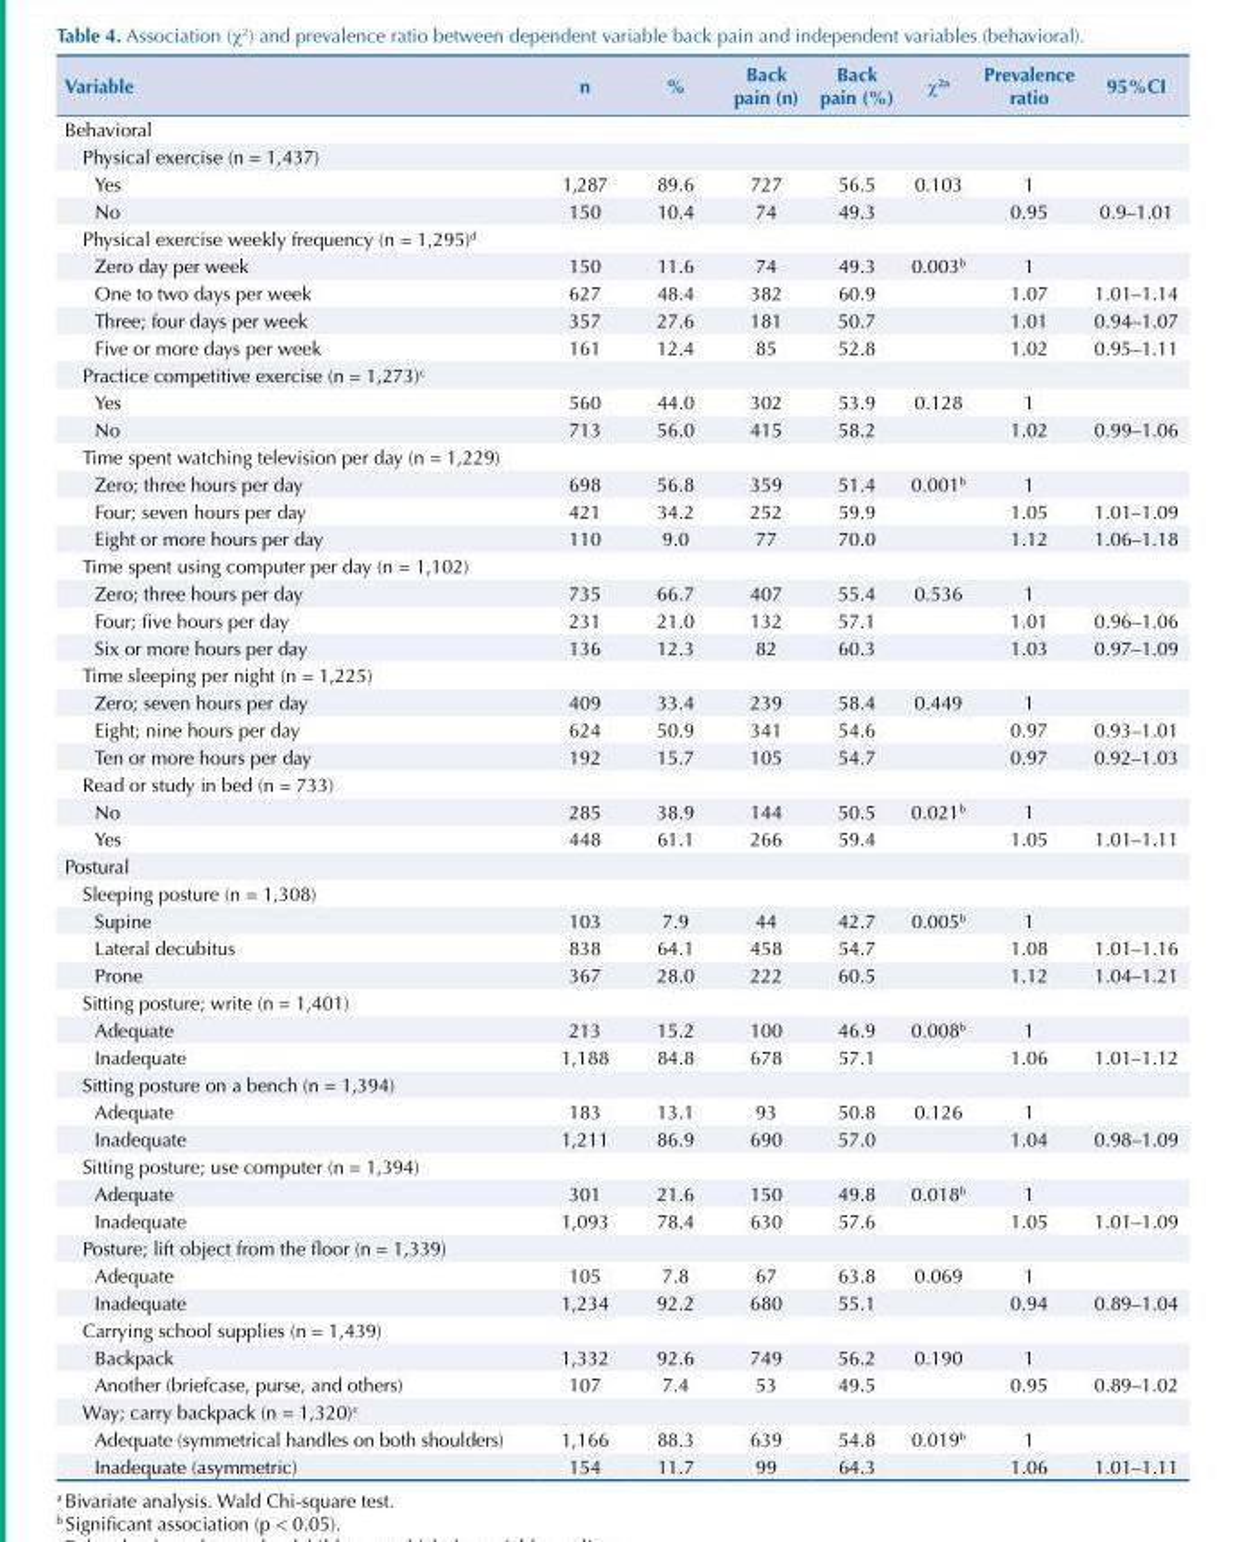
<table><thead><tr><td>Variable</td><td>n</td><td>%</td><td>Back pain (n)</td><td>Back pain (%)</td><td>χ<sup>2a</sup></td><td>Prevalence ratio</td><td>95%CI</td></tr></thead><tbody><tr><td colspan="8">Behavioral</td></tr><tr><td colspan="8">Physical exercise (n = 1,437)</td></tr><tr><td>Yes</td><td>1,287</td><td>89.6</td><td>727</td><td>56.5</td><td>0.103</td><td>1</td><td></td></tr><tr><td>No</td><td>150</td><td>10.4</td><td>74</td><td>49.3</td><td></td><td>0.95</td><td>0.9–1.01</td></tr><tr><td colspan="8">Physical exercise weekly frequency (n = 1,295)<sup>d</sup></td></tr><tr><td>Zero day per week</td><td>150</td><td>11.6</td><td>74</td><td>49.3</td><td>0.003<sup>b</sup></td><td>1</td><td></td></tr><tr><td>One to two days per week</td><td>627</td><td>48.4</td><td>382</td><td>60.9</td><td></td><td>1.07</td><td>1.01–1.14</td></tr><tr><td>Three; four days per week</td><td>357</td><td>27.6</td><td>181</td><td>50.7</td><td></td><td>1.01</td><td>0.94–1.07</td></tr><tr><td>Five or more days per week</td><td>161</td><td>12.4</td><td>85</td><td>52.8</td><td></td><td>1.02</td><td>0.95–1.11</td></tr><tr><td colspan="8">Practice competitive exercise (n = 1,273)<sup>c</sup></td></tr><tr><td>Yes</td><td>560</td><td>44.0</td><td>302</td><td>53.9</td><td>0.128</td><td>1</td><td></td></tr><tr><td>No</td><td>713</td><td>56.0</td><td>415</td><td>58.2</td><td></td><td>1.02</td><td>0.99–1.06</td></tr><tr><td colspan="8">Time spent watching television per day (n = 1,229)</td></tr><tr><td>Zero; three hours per day</td><td>698</td><td>56.8</td><td>359</td><td>51.4</td><td>0.001<sup>b</sup></td><td>1</td><td></td></tr><tr><td>Four; seven hours per day</td><td>421</td><td>34.2</td><td>252</td><td>59.9</td><td></td><td>1.05</td><td>1.01–1.09</td></tr><tr><td>Eight or more hours per day</td><td>110</td><td>9.0</td><td>77</td><td>70.0</td><td></td><td>1.12</td><td>1.06–1.18</td></tr><tr><td colspan="8">Time spent using computer per day (n = 1,102)</td></tr><tr><td>Zero; three hours per day</td><td>735</td><td>66.7</td><td>407</td><td>55.4</td><td>0.536</td><td>1</td><td></td></tr><tr><td>Four; five hours per day</td><td>231</td><td>21.0</td><td>132</td><td>57.1</td><td></td><td>1.01</td><td>0.96–1.06</td></tr><tr><td>Six or more hours per day</td><td>136</td><td>12.3</td><td>82</td><td>60.3</td><td></td><td>1.03</td><td>0.97–1.09</td></tr><tr><td colspan="8">Time sleeping per night (n = 1,225)</td></tr><tr><td>Zero; seven hours per day</td><td>409</td><td>33.4</td><td>239</td><td>58.4</td><td>0.449</td><td>1</td><td></td></tr><tr><td>Eight; nine hours per day</td><td>624</td><td>50.9</td><td>341</td><td>54.6</td><td></td><td>0.97</td><td>0.93–1.01</td></tr><tr><td>Ten or more hours per day</td><td>192</td><td>15.7</td><td>105</td><td>54.7</td><td></td><td>0.97</td><td>0.92–1.03</td></tr><tr><td colspan="8">Read or study in bed (n = 733)</td></tr><tr><td>No</td><td>285</td><td>38.9</td><td>144</td><td>50.5</td><td>0.021<sup>b</sup></td><td>1</td><td></td></tr><tr><td>Yes</td><td>448</td><td>61.1</td><td>266</td><td>59.4</td><td></td><td>1.05</td><td>1.01–1.11</td></tr><tr><td colspan="8">Postural</td></tr><tr><td colspan="8">Sleeping posture (n = 1,308)</td></tr><tr><td>Supine</td><td>103</td><td>7.9</td><td>44</td><td>42.7</td><td>0.005<sup>b</sup></td><td>1</td><td></td></tr><tr><td>Lateral decubitus</td><td>838</td><td>64.1</td><td>458</td><td>54.7</td><td></td><td>1.08</td><td>1.01–1.16</td></tr><tr><td>Prone</td><td>367</td><td>28.0</td><td>222</td><td>60.5</td><td></td><td>1.12</td><td>1.04–1.21</td></tr><tr><td colspan="8">Sitting posture; write (n = 1,401)</td></tr><tr><td>Adequate</td><td>213</td><td>15.2</td><td>100</td><td>46.9</td><td>0.008<sup>b</sup></td><td>1</td><td></td></tr><tr><td>Inadequate</td><td>1,188</td><td>84.8</td><td>678</td><td>57.1</td><td></td><td>1.06</td><td>1.01–1.12</td></tr><tr><td colspan="8">Sitting posture on a bench (n = 1,394)</td></tr><tr><td>Adequate</td><td>183</td><td>13.1</td><td>93</td><td>50.8</td><td>0.126</td><td>1</td><td></td></tr><tr><td>Inadequate</td><td>1,211</td><td>86.9</td><td>690</td><td>57.0</td><td></td><td>1.04</td><td>0.98–1.09</td></tr><tr><td colspan="8">Sitting posture; use computer (n = 1,394)</td></tr><tr><td>Adequate</td><td>301</td><td>21.6</td><td>150</td><td>49.8</td><td>0.018<sup>b</sup></td><td>1</td><td></td></tr><tr><td>Inadequate</td><td>1,093</td><td>78.4</td><td>630</td><td>57.6</td><td></td><td>1.05</td><td>1.01–1.09</td></tr><tr><td colspan="8">Posture; lift object from the floor (n = 1,339)</td></tr><tr><td>Adequate</td><td>105</td><td>7.8</td><td>67</td><td>63.8</td><td>0.069</td><td>1</td><td></td></tr><tr><td>Inadequate</td><td>1,234</td><td>92.2</td><td>680</td><td>55.1</td><td></td><td>0.94</td><td>0.89–1.04</td></tr><tr><td colspan="8">Carrying school supplies (n = 1,439)</td></tr><tr><td>Backpack</td><td>1,332</td><td>92.6</td><td>749</td><td>56.2</td><td>0.190</td><td>1</td><td></td></tr><tr><td>Another (briefcase, purse, and others)</td><td>107</td><td>7.4</td><td>53</td><td>49.5</td><td></td><td>0.95</td><td>0.89–1.02</td></tr><tr><td colspan="8">Way; carry backpack (n = 1,320)<sup>c</sup></td></tr><tr><td>Adequate (symmetrical handles on both shoulders)</td><td>1,166</td><td>88.3</td><td>639</td><td>54.8</td><td>0.019<sup>b</sup></td><td>1</td><td></td></tr><tr><td>Inadequate (asymmetric)</td><td>154</td><td>11.7</td><td>99</td><td>64.3</td><td></td><td>1.06</td><td>1.01–1.11</td></tr></tbody></table>